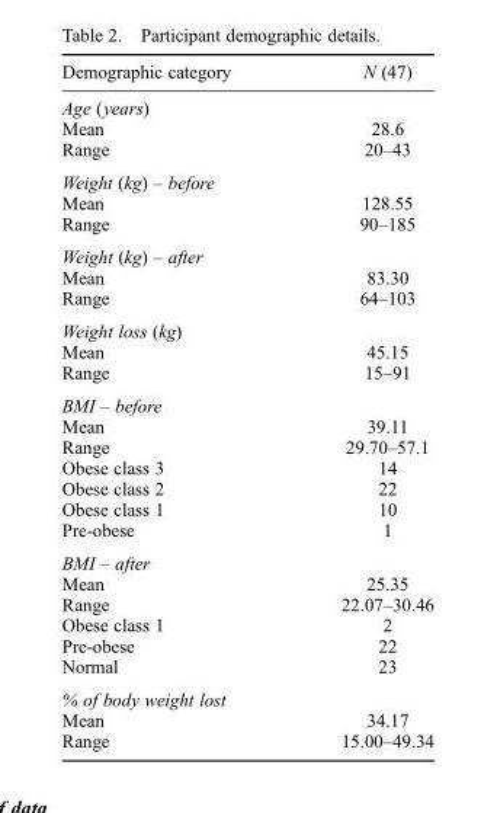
<table><thead><tr><td>Demographic category</td><td>N (47)</td></tr></thead><tbody><tr><td colspan="2">Age (years)</td></tr><tr><td>Mean</td><td>28.6</td></tr><tr><td>Range</td><td>20–43</td></tr><tr><td colspan="2">Weight (kg) – before</td></tr><tr><td>Mean</td><td>128.55</td></tr><tr><td>Range</td><td>90–185</td></tr><tr><td colspan="2">Weight (kg) – after</td></tr><tr><td>Mean</td><td>83.30</td></tr><tr><td>Range</td><td>64–103</td></tr><tr><td colspan="2">Weight loss (kg)</td></tr><tr><td>Mean</td><td>45.15</td></tr><tr><td>Range</td><td>15–91</td></tr><tr><td colspan="2">BMI – before</td></tr><tr><td>Mean</td><td>39.11</td></tr><tr><td>Range</td><td>29.70–57.1</td></tr><tr><td>Obese class 3</td><td>14</td></tr><tr><td>Obese class 2</td><td>22</td></tr><tr><td>Obese class 1</td><td>10</td></tr><tr><td>Pre-obese</td><td>1</td></tr><tr><td colspan="2">BMI – after</td></tr><tr><td>Mean</td><td>25.35</td></tr><tr><td>Range</td><td>22.07–30.46</td></tr><tr><td>Obese class 1</td><td>2</td></tr><tr><td>Pre-obese</td><td>22</td></tr><tr><td>Normal</td><td>23</td></tr><tr><td colspan="2">% of body weight lost</td></tr><tr><td>Mean</td><td>34.17</td></tr><tr><td>Range</td><td>15.00–49.34</td></tr></tbody></table>